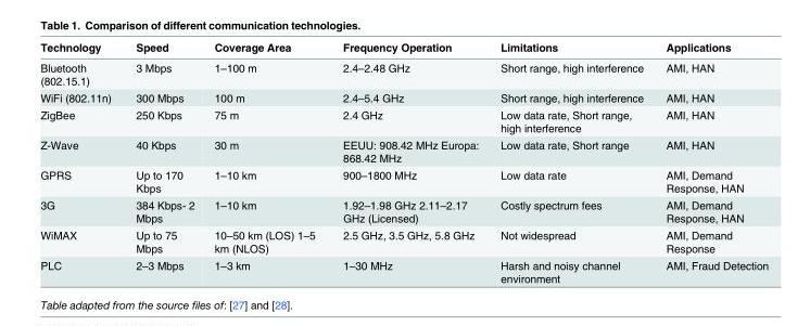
<table><thead><tr><td>Technology</td><td>Speed</td><td>Coverage Area</td><td>Frequency Operation</td><td>Limitations</td><td>Applications</td></tr></thead><tbody><tr><td>Bluetooth (802.15.1)</td><td>3 Mbps</td><td>1–100 m</td><td>2.4–2.48 GHz</td><td>Short range, high interference</td><td>AMI, HAN</td></tr><tr><td>WiFi (802.11n)</td><td>300 Mbps</td><td>100 m</td><td>2.4–5.4 GHz</td><td>Short range, high interference</td><td>AMI, HAN</td></tr><tr><td>ZigBee</td><td>250 Kbps</td><td>75 m</td><td>2.4 GHz</td><td>Low data rate, Short range, high interference</td><td>AMI, HAN</td></tr><tr><td>Z-Wave</td><td>40 Kbps</td><td>30 m</td><td>EEUU: 908.42 MHz Europa: 868.42 MHz</td><td>Low data rate, Short range</td><td>AMI, HAN</td></tr><tr><td>GPRS</td><td>Up to 170 Kbps</td><td>1–10 km</td><td>900–1800 MHz</td><td>Low data rate</td><td>AMI, Demand Response, HAN</td></tr><tr><td>3G</td><td>384 Kbps- 2 Mbps</td><td>1–10 km</td><td>1.92–1.98 GHz 2.11–2.17 GHz (Licensed)</td><td>Costly spectrum fees</td><td>AMI, Demand Response, HAN</td></tr><tr><td>WiMAX</td><td>Up to 75 Mbps</td><td>10–50 km (LOS) 1–5 km (NLOS)</td><td>2.5 GHz, 3.5 GHz, 5.8 GHz</td><td>Not widespread</td><td>AMI, Demand Response</td></tr><tr><td>PLC</td><td>2–3 Mbps</td><td>1–3 km</td><td>1–30 MHz</td><td>Harsh and noisy channel environment</td><td>AMI, Fraud Detection</td></tr></tbody></table>